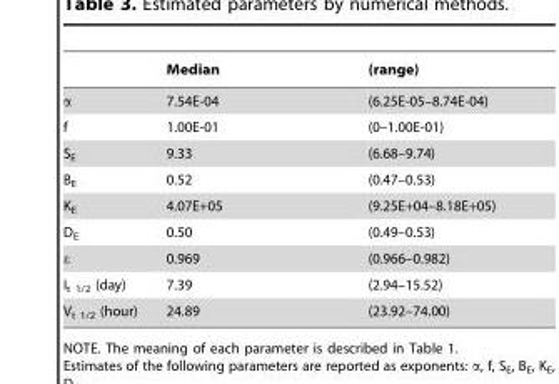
<table><thead><tr><td></td><td>Median</td><td>(range)</td></tr></thead><tbody><tr><td>α</td><td>7.54E-04</td><td>(6.25E-05–8.74E-04)</td></tr><tr><td>f</td><td>1.00E-01</td><td>(0–1.00E-01)</td></tr><tr><td>S<sub>E</sub></td><td>9.33</td><td>(6.68–9.74)</td></tr><tr><td>B<sub>E</sub></td><td>0.52</td><td>(0.47–0.53)</td></tr><tr><td>K<sub>E</sub></td><td>4.07E+05</td><td>(9.25E+04–8.18E+05)</td></tr><tr><td>D<sub>E</sub></td><td>0.50</td><td>(0.49–0.53)</td></tr><tr><td>ε</td><td>0.969</td><td>(0.966–0.982)</td></tr><tr><td>I<sub>t 1/2</sub> (day)</td><td>7.39</td><td>(2.94–15.52)</td></tr><tr><td>V<sub>t 1/2</sub> (hour)</td><td>24.89</td><td>(23.92–74.00)</td></tr></tbody></table>